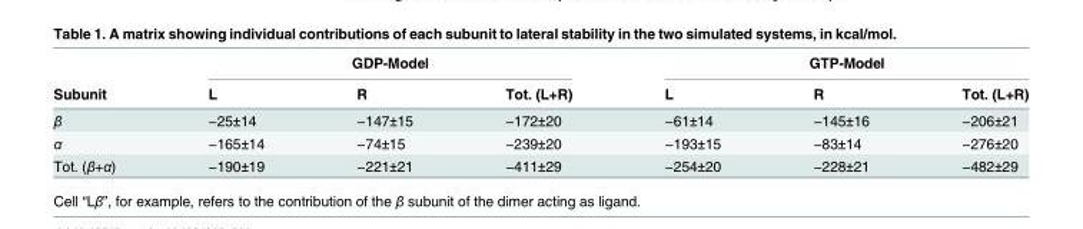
<table><thead><tr><td rowspan="2">Subunit</td><td colspan="3">GDP-Model</td><td colspan="3">GTP-Model</td></tr><tr><td>L</td><td>R</td><td>Tot. (L+R)</td><td>L</td><td>R</td><td>Tot. (L+R)</td></tr></thead><tbody><tr><td>β</td><td>−25±14</td><td>−147±15</td><td>−172±20</td><td>−61±14</td><td>−145±16</td><td>−206±21</td></tr><tr><td>α</td><td>−165±14</td><td>−74±15</td><td>−239±20</td><td>−193±15</td><td>−83±14</td><td>−276±20</td></tr><tr><td>Tot. (β+α)</td><td>−190±19</td><td>−221±21</td><td>−411±29</td><td>−254±20</td><td>−228±21</td><td>−482±29</td></tr></tbody></table>